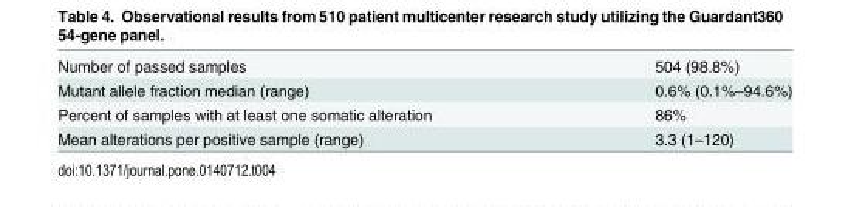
<table><tbody><tr><td>Number of passed samples</td><td>504 (98.8%)</td></tr><tr><td>Mutant allele fraction median (range)</td><td>0.6% (0.1%–94.6%)</td></tr><tr><td>Percent of samples with at least one somatic alteration</td><td>86%</td></tr><tr><td>Mean alterations per positive sample (range)</td><td>3.3 (1–120)</td></tr></tbody></table>